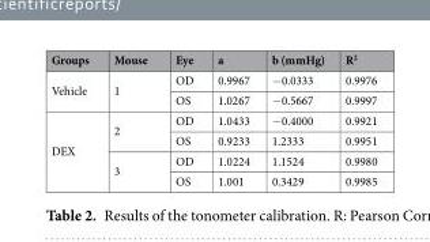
<table><thead><tr><td>Groups</td><td>Mouse</td><td>Eye</td><td>a</td><td>b (mmHg)</td><td>R<sup>2</sup></td></tr></thead><tbody><tr><td rowspan="2">Vehicle</td><td rowspan="2">1</td><td>OD</td><td>0.9967</td><td>−0.0333</td><td>0.9976</td></tr><tr><td>OS</td><td>1.0267</td><td>−0.5667</td><td>0.9997</td></tr><tr><td rowspan="4">DEX</td><td rowspan="2">2</td><td>OD</td><td>1.0433</td><td>−0.4000</td><td>0.9921</td></tr><tr><td>OS</td><td>0.9233</td><td>1.2333</td><td>0.9951</td></tr><tr><td rowspan="2">3</td><td>OD</td><td>1.0224</td><td>1.1524</td><td>0.9980</td></tr><tr><td>OS</td><td>1.001</td><td>0.3429</td><td>0.9985</td></tr></tbody></table>